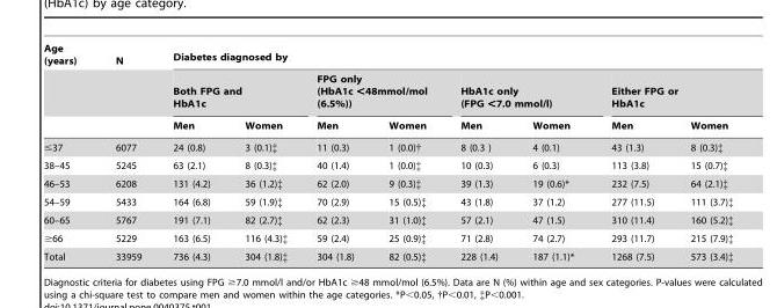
<table><thead><tr><td rowspan="3">Age (years)</td><td rowspan="3">N</td><td colspan="8">Diabetes diagnosed by</td></tr><tr><td colspan="2">Both FPG and HbA1c</td><td colspan="2">FPG only (HbA1c &lt;48mmol/mol (6.5%))</td><td colspan="2">HbA1c only (FPG &lt;7.0 mmol/l)</td><td colspan="2">Either FPG or HbA1c</td></tr><tr><td>Men</td><td>Women</td><td>Men</td><td>Women</td><td>Men</td><td>Women</td><td>Men</td><td>Women</td></tr></thead><tbody><tr><td>≤37</td><td>6077</td><td>24 (0.8)</td><td>3 (0.1)‡</td><td>11 (0.3)</td><td>1 (0.0)†</td><td>8 (0.3 )</td><td>4 (0.1)</td><td>43 (1.3)</td><td>8 (0.3)‡</td></tr><tr><td>38–45</td><td>5245</td><td>63 (2.1)</td><td>8 (0.3)‡</td><td>40 (1.4)</td><td>1 (0.0)‡</td><td>10 (0.3)</td><td>6 (0.3)</td><td>113 (3.8)</td><td>15 (0.7)‡</td></tr><tr><td>46–53</td><td>6208</td><td>131 (4.2)</td><td>36 (1.2)‡</td><td>62 (2.0)</td><td>9 (0.3)‡</td><td>39 (1.3)</td><td>19 (0.6)*</td><td>232 (7.5)</td><td>64 (2.1)‡</td></tr><tr><td>54–59</td><td>5433</td><td>164 (6.8)</td><td>59 (1.9)‡</td><td>70 (2.9)</td><td>15 (0.5)‡</td><td>43 (1.8)</td><td>37 (1.2)</td><td>277 (11.5)</td><td>111 (3.7)‡</td></tr><tr><td>60–65</td><td>5767</td><td>191 (7.1)</td><td>82 (2.7)‡</td><td>62 (2.3)</td><td>31 (1.0)‡</td><td>57 (2.1)</td><td>47 (1.5)</td><td>310 (11.4)</td><td>160 (5.2)‡</td></tr><tr><td>≥66</td><td>5229</td><td>163 (6.5)</td><td>116 (4.3)‡</td><td>59 (2.4)</td><td>25 (0.9)‡</td><td>71 (2.8)</td><td>74 (2.7)</td><td>293 (11.7)</td><td>215 (7.9)‡</td></tr><tr><td>Total</td><td>33959</td><td>736 (4.3)</td><td>304 (1.8)‡</td><td>304 (1.8)</td><td>82 (0.5)‡</td><td>228 (1.4)</td><td>187 (1.1)*</td><td>1268 (7.5)</td><td>573 (3.4)‡</td></tr></tbody></table>